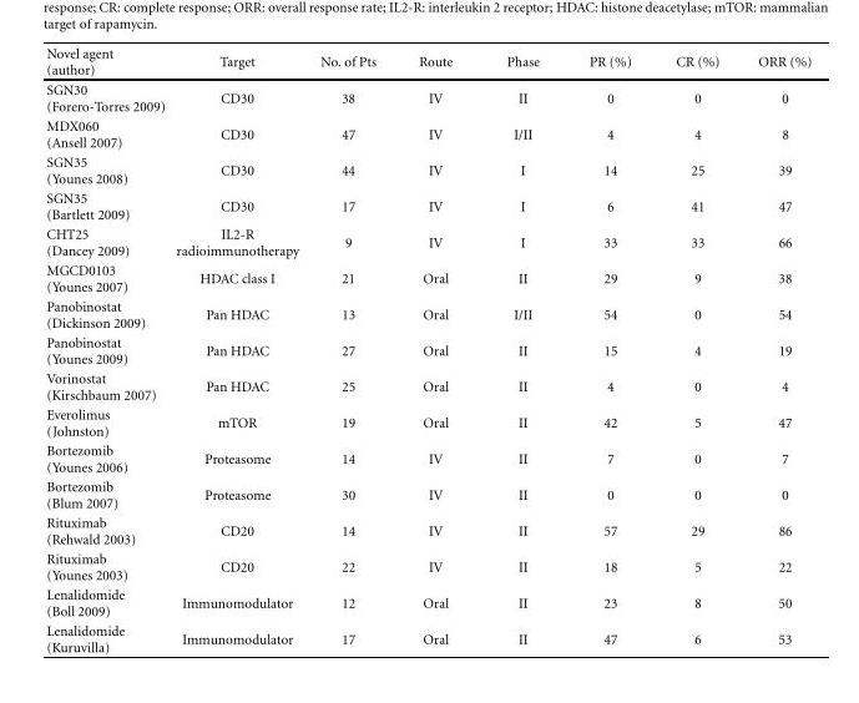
<table><thead><tr><td>Novel agent (author)</td><td>Target</td><td>No. of Pts</td><td>Route</td><td>Phase</td><td>PR (%)</td><td>CR (%)</td><td>ORR (%)</td></tr></thead><tbody><tr><td>SGN30 (Forero-Torres 2009)</td><td>CD30</td><td>38</td><td>IV</td><td>II</td><td>0</td><td>0</td><td>0</td></tr><tr><td>MDX060 (Ansell 2007)</td><td>CD30</td><td>47</td><td>IV</td><td>I/II</td><td>4</td><td>4</td><td>8</td></tr><tr><td>SGN35 (Younes 2008)</td><td>CD30</td><td>44</td><td>IV</td><td>I</td><td>14</td><td>25</td><td>39</td></tr><tr><td>SGN35 (Bartlett 2009)</td><td>CD30</td><td>17</td><td>IV</td><td>I</td><td>6</td><td>41</td><td>47</td></tr><tr><td>CHT25 (Dancey 2009)</td><td>IL2-R radioimmunotherapy</td><td>9</td><td>IV</td><td>I</td><td>33</td><td>33</td><td>66</td></tr><tr><td>MGCD0103 (Younes 2007)</td><td>HDAC class I</td><td>21</td><td>Oral</td><td>II</td><td>29</td><td>9</td><td>38</td></tr><tr><td>Panobinostat (Dickinson 2009)</td><td>Pan HDAC</td><td>13</td><td>Oral</td><td>I/II</td><td>54</td><td>0</td><td>54</td></tr><tr><td>Panobinostat (Younes 2009)</td><td>Pan HDAC</td><td>27</td><td>Oral</td><td>II</td><td>15</td><td>4</td><td>19</td></tr><tr><td>Vorinostat (Kirschbaum 2007)</td><td>Pan HDAC</td><td>25</td><td>Oral</td><td>II</td><td>4</td><td>0</td><td>4</td></tr><tr><td>Everolimus (Johnston)</td><td>mTOR</td><td>19</td><td>Oral</td><td>II</td><td>42</td><td>5</td><td>47</td></tr><tr><td>Bortezomib (Younes 2006)</td><td>Proteasome</td><td>14</td><td>IV</td><td>II</td><td>7</td><td>0</td><td>7</td></tr><tr><td>Bortezomib (Blum 2007)</td><td>Proteasome</td><td>30</td><td>IV</td><td>II</td><td>0</td><td>0</td><td>0</td></tr><tr><td>Rituximab (Rehwald 2003)</td><td>CD20</td><td>14</td><td>IV</td><td>II</td><td>57</td><td>29</td><td>86</td></tr><tr><td>Rituximab (Younes 2003)</td><td>CD20</td><td>22</td><td>IV</td><td>II</td><td>18</td><td>5</td><td>22</td></tr><tr><td>Lenalidomide (Boll 2009)</td><td>Immunomodulator</td><td>12</td><td>Oral</td><td>II</td><td>23</td><td>8</td><td>50</td></tr><tr><td>Lenalidomide (Kuruvilla)</td><td>Immunomodulator</td><td>17</td><td>Oral</td><td>II</td><td>47</td><td>6</td><td>53</td></tr></tbody></table>